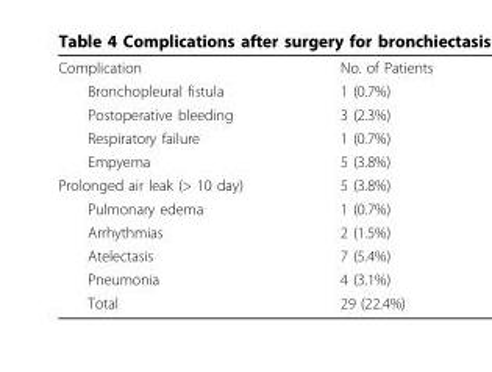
<table><tbody><tr><td>Complication</td><td>No. of Patients</td></tr><tr><td>Bronchopleural fistula</td><td>1 (0.7%)</td></tr><tr><td>Postoperative bleeding</td><td>3 (2.3%)</td></tr><tr><td>Respiratory failure</td><td>1 (0.7%)</td></tr><tr><td>Empyema</td><td>5 (3.8%)</td></tr><tr><td>Prolonged air leak (&gt; 10 day)</td><td>5 (3.8%)</td></tr><tr><td>Pulmonary edema</td><td>1 (0.7%)</td></tr><tr><td>Arrhythmias</td><td>2 (1.5%)</td></tr><tr><td>Atelectasis</td><td>7 (5.4%)</td></tr><tr><td>Pneumonia</td><td>4 (3.1%)</td></tr><tr><td>Total</td><td>29 (22.4%)</td></tr></tbody></table>